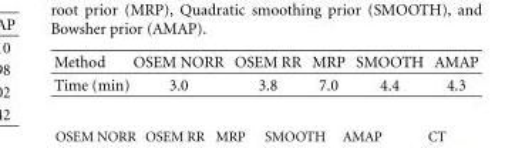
<table><thead><tr><td>Method</td><td>OSEM NORR</td><td>OSEM RR</td><td>MRP</td><td>SMOOTH</td><td>AMAP</td></tr></thead><tbody><tr><td>Time (min)</td><td>3.0</td><td>3.8</td><td>7.0</td><td>4.4</td><td>4.3</td></tr></tbody></table>